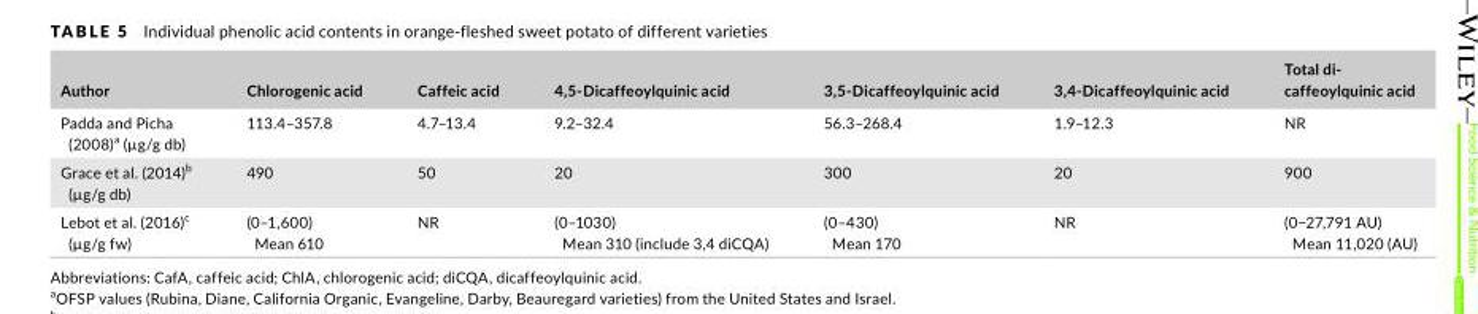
<table><thead><tr><td>Author</td><td>Chlorogenic acid</td><td>Caffeic acid</td><td>4,5‐Dicaffeoylquinic acid</td><td>3,5‐Dicaffeoylquinic acid</td><td>3,4‐Dicaffeoylquinic acid</td><td>Total di‐ caffeoylquinic acid</td></tr></thead><tbody><tr><td>Padda and Picha (2008)<sup>a</sup> (µg/g db)</td><td>113.4–357.8</td><td>4.7–13.4</td><td>9.2–32.4</td><td>56.3–268.4</td><td>1.9–12.3</td><td>NR</td></tr><tr><td>Grace et al. (2014)<sup>b</sup> (µg/g db)</td><td>490</td><td>50</td><td>20</td><td>300</td><td>20</td><td>900</td></tr><tr><td>Lebot et al. (2016)<sup>c</sup> (µg/g fw)</td><td>(0–1,600) Mean 610</td><td>NR</td><td>(0–1030) Mean 310 (include 3,4 diCQA)</td><td>(0–430) Mean 170</td><td>NR</td><td>(0−27,791 AU) Mean 11,020 (AU)</td></tr></tbody></table>